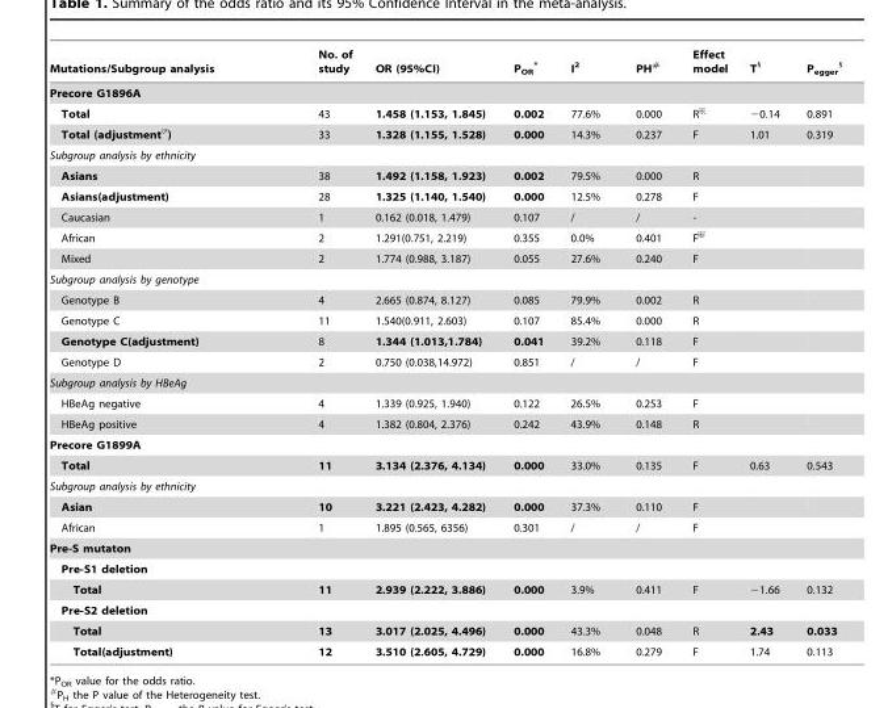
<table><thead><tr><td>Mutations/Subgroup analysis</td><td>No. of study</td><td>OR (95%CI)</td><td>P<sub>OR</sub> *</td><td>I<sup>2</sup></td><td>PH#</td><td>Effect model</td><td>T§</td><td>Pegger</td></tr></thead><tbody><tr><td colspan="9">Precore G1896A</td></tr><tr><td>Total</td><td>43</td><td>1.458 (1.153, 1.845)</td><td>0.002</td><td>77.6%</td><td>0.000</td><td>R</td><td>−0.14</td><td>0.891</td></tr><tr><td>Total (adjustment=)</td><td>33</td><td>1.328 (1.155, 1.528)</td><td>0.000</td><td>14.3%</td><td>0.237</td><td>F</td><td>1.01</td><td>0.319</td></tr><tr><td colspan="9">Subgroup analysis by ethnicity</td></tr><tr><td>Asians</td><td>38</td><td>1.492 (1.158, 1.923)</td><td>0.002</td><td>79.5%</td><td>0.000</td><td>R</td><td></td><td></td></tr><tr><td>Asians(adjustment)</td><td>28</td><td>1.325 (1.140, 1.540)</td><td>0.000</td><td>12.5%</td><td>0.278</td><td>F</td><td></td><td></td></tr><tr><td>Caucasian</td><td>1</td><td>0.162 (0.018, 1.479)</td><td>0.107</td><td>/</td><td>/</td><td>-</td><td></td><td></td></tr><tr><td>African</td><td>2</td><td>1.291(0.751, 2.219)</td><td>0.355</td><td>0.0%</td><td>0.401</td><td>F</td><td></td><td></td></tr><tr><td>Mixed</td><td>2</td><td>1.774 (0.988, 3.187)</td><td>0.055</td><td>27.6%</td><td>0.240</td><td>F</td><td></td><td></td></tr><tr><td colspan="9">Subgroup analysis by genotype</td></tr><tr><td>Genotype B</td><td>4</td><td>2.665 (0.874, 8.127)</td><td>0.085</td><td>79.9%</td><td>0.002</td><td>R</td><td></td><td></td></tr><tr><td>Genotype C</td><td>11</td><td>1.540(0.911, 2.603)</td><td>0.107</td><td>85.4%</td><td>0.000</td><td>R</td><td></td><td></td></tr><tr><td>Genotype C(adjustment)</td><td>8</td><td>1.344 (1.013,1.784)</td><td>0.041</td><td>39.2%</td><td>0.118</td><td>F</td><td></td><td></td></tr><tr><td>Genotype D</td><td>2</td><td>0.750 (0.038,14.972)</td><td>0.851</td><td>/</td><td>/</td><td>F</td><td></td><td></td></tr><tr><td colspan="9">Subgroup analysis by HBeAg</td></tr><tr><td>HBeAg negative</td><td>4</td><td>1.339 (0.925, 1.940)</td><td>0.122</td><td>26.5%</td><td>0.253</td><td>F</td><td></td><td></td></tr><tr><td>HBeAg positive</td><td>4</td><td>1.382 (0.804, 2.376)</td><td>0.242</td><td>43.9%</td><td>0.148</td><td>R</td><td></td><td></td></tr><tr><td colspan="9">Precore G1899A</td></tr><tr><td>Total</td><td>11</td><td>3.134 (2.376, 4.134)</td><td>0.000</td><td>33.0%</td><td>0.135</td><td>F</td><td>0.63</td><td>0.543</td></tr><tr><td colspan="9">Subgroup analysis by ethnicity</td></tr><tr><td>Asian</td><td>10</td><td>3.221 (2.423, 4.282)</td><td>0.000</td><td>37.3%</td><td>0.110</td><td>F</td><td></td><td></td></tr><tr><td>African</td><td>1</td><td>1.895 (0.565, 6356)</td><td>0.301</td><td>/</td><td>/</td><td>F</td><td></td><td></td></tr><tr><td colspan="9">Pre-S mutaton</td></tr><tr><td colspan="9">Pre-S1 deletion</td></tr><tr><td>Total</td><td>11</td><td>2.939 (2.222, 3.886)</td><td>0.000</td><td>3.9%</td><td>0.411</td><td>F</td><td>−1.66</td><td>0.132</td></tr><tr><td colspan="9">Pre-S2 deletion</td></tr><tr><td>Total</td><td>13</td><td>3.017 (2.025, 4.496)</td><td>0.000</td><td>43.3%</td><td>0.048</td><td>R</td><td>2.43</td><td>0.033</td></tr><tr><td>Total(adjustment)</td><td>12</td><td>3.510 (2.605, 4.729)</td><td>0.000</td><td>16.8%</td><td>0.279</td><td>F</td><td>1.74</td><td>0.113</td></tr></tbody></table>